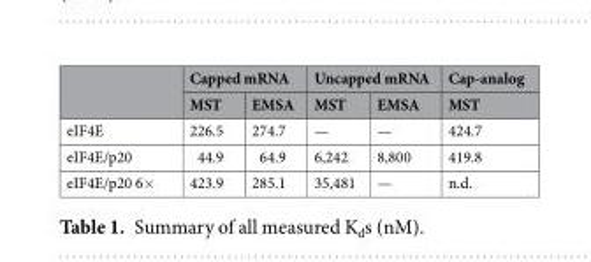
<table><thead><tr><td rowspan="2"></td><td colspan="2">Capped mRNA</td><td colspan="2">Uncapped mRNA</td><td rowspan="2">Cap-analog MST</td></tr><tr><td>MST</td><td>EMSA</td><td>MST</td><td>EMSA</td></tr></thead><tbody><tr><td>eIF4E</td><td>226.5</td><td>274.7</td><td>—</td><td>—</td><td>424.7</td></tr><tr><td>eIF4E/p20</td><td>44.9</td><td>64.9</td><td>6,242</td><td>8,800</td><td>419.8</td></tr><tr><td>eIF4E/p20 6×</td><td>423.9</td><td>285.1</td><td>35,481</td><td>—</td><td>n.d.</td></tr></tbody></table>